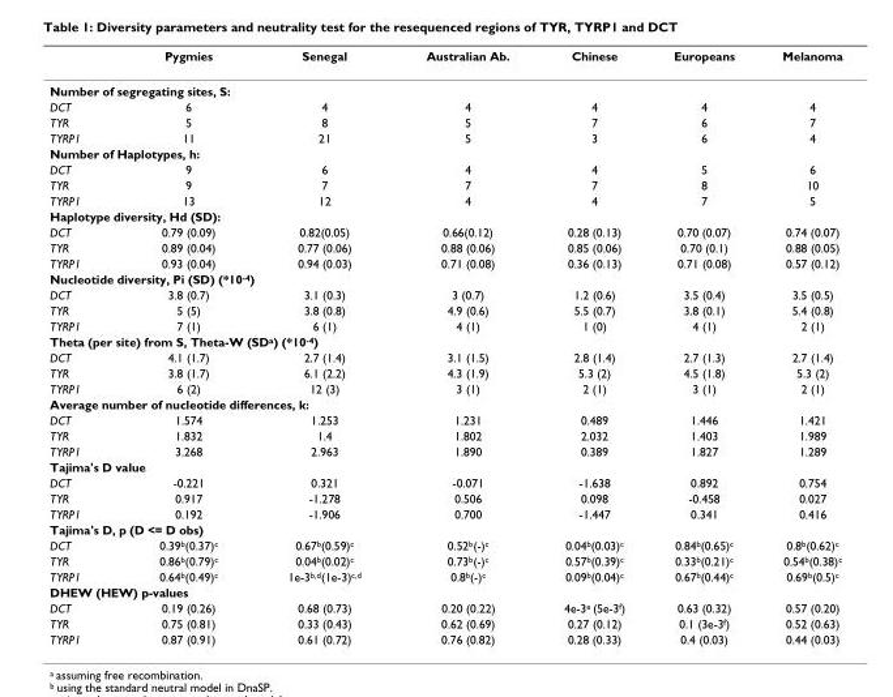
<table><thead><tr><td></td><td>Pygmies</td><td>Senegal</td><td>Australian Ab.</td><td>Chinese</td><td>Europeans</td><td>Melanoma</td></tr></thead><tbody><tr><td colspan="7">Number of segregating sites, S:</td></tr><tr><td>DCT</td><td>6</td><td>4</td><td>4</td><td>4</td><td>4</td><td>4</td></tr><tr><td>TYR</td><td>5</td><td>8</td><td>5</td><td>7</td><td>6</td><td>7</td></tr><tr><td>TYRP1</td><td>11</td><td>21</td><td>5</td><td>3</td><td>6</td><td>4</td></tr><tr><td colspan="7">Number of Haplotypes, h:</td></tr><tr><td>DCT</td><td>9</td><td>6</td><td>4</td><td>4</td><td>5</td><td>6</td></tr><tr><td>TYR</td><td>9</td><td>7</td><td>7</td><td>7</td><td>8</td><td>10</td></tr><tr><td>TYRP1</td><td>13</td><td>12</td><td>4</td><td>4</td><td>7</td><td>5</td></tr><tr><td colspan="7">Haplotype diversity, Hd (SD):</td></tr><tr><td>DCT</td><td>0.79 (0.09)</td><td>0.82(0.05)</td><td>0.66(0.12)</td><td>0.28 (0.13)</td><td>0.70 (0.07)</td><td>0.74 (0.07)</td></tr><tr><td>TYR</td><td>0.89 (0.04)</td><td>0.77 (0.06)</td><td>0.88 (0.06)</td><td>0.85 (0.06)</td><td>0.70 (0.1)</td><td>0.88 (0.05)</td></tr><tr><td>TYRP1</td><td>0.93 (0.04)</td><td>0.94 (0.03)</td><td>0.71 (0.08)</td><td>0.36 (0.13)</td><td>0.71 (0.08)</td><td>0.57 (0.12)</td></tr><tr><td colspan="7">Nucleotide diversity, Pi (SD) (*10<sup>-4</sup>)</td></tr><tr><td>DCT</td><td>3.8 (0.7)</td><td>3.1 (0.3)</td><td>3 (0.7)</td><td>1.2 (0.6)</td><td>3.5 (0.4)</td><td>3.5 (0.5)</td></tr><tr><td>TYR</td><td>5 (5)</td><td>3.8 (0.8)</td><td>4.9 (0.6)</td><td>5.5 (0.7)</td><td>3.8 (0.1)</td><td>5.4 (0.8)</td></tr><tr><td>TYRP1</td><td>7 (1)</td><td>6 (1)</td><td>4 (1)</td><td>1 (0)</td><td>4 (1)</td><td>2 (1)</td></tr><tr><td colspan="7">Theta (per site) from S, Theta-W (SD<sup>a</sup>) (*10<sup>-4</sup>)</td></tr><tr><td>DCT</td><td>4.1 (1.7)</td><td>2.7 (1.4)</td><td>3.1 (1.5)</td><td>2.8 (1.4)</td><td>2.7 (1.3)</td><td>2.7 (1.4)</td></tr><tr><td>TYR</td><td>3.8 (1.7)</td><td>6.1 (2.2)</td><td>4.3 (1.9)</td><td>5.3 (2)</td><td>4.5 (1.8)</td><td>5.3 (2)</td></tr><tr><td>TYRP1</td><td>6 (2)</td><td>12 (3)</td><td>3 (1)</td><td>2 (1)</td><td>3 (1)</td><td>2 (1)</td></tr><tr><td colspan="7">Average number of nucleotide differences, k:</td></tr><tr><td>DCT</td><td>1.574</td><td>1.253</td><td>1.231</td><td>0.489</td><td>1.446</td><td>1.421</td></tr><tr><td>TYR</td><td>1.832</td><td>1.4</td><td>1.802</td><td>2.032</td><td>1.403</td><td>1.989</td></tr><tr><td>TYRP1</td><td>3.268</td><td>2.963</td><td>1.890</td><td>0.389</td><td>1.827</td><td>1.289</td></tr><tr><td colspan="7">Tajima&#x27;s D value</td></tr><tr><td>DCT</td><td>-0.221</td><td>0.321</td><td>-0.071</td><td>-1.638</td><td>0.892</td><td>0.754</td></tr><tr><td>TYR</td><td>0.917</td><td>-1.278</td><td>0.506</td><td>0.098</td><td>-0.458</td><td>0.027</td></tr><tr><td>TYRP1</td><td>0.192</td><td>-1.906</td><td>0.700</td><td>-1.447</td><td>0.341</td><td>0.416</td></tr><tr><td colspan="7">Tajima&#x27;s D, p (D &lt;= D obs)</td></tr><tr><td>DCT</td><td>0.39<sup>b</sup>(0.37)<sup>c</sup></td><td>0.67<sup>b</sup>(0.59)<sup>c</sup></td><td>0.52<sup>b</sup>(-)<sup>c</sup></td><td>0.04<sup>b</sup>(0.03)<sup>c</sup></td><td>0.84<sup>b</sup>(0.65)<sup>c</sup></td><td>0.8<sup>b</sup>(0.62)<sup>c</sup></td></tr><tr><td>TYR</td><td>0.86<sup>b</sup>(0.79)<sup>c</sup></td><td>0.04<sup>b</sup>(0.02)<sup>c</sup></td><td>0.73<sup>b</sup>(-)<sup>c</sup></td><td>0.57<sup>b</sup>(0.39)<sup>c</sup></td><td>0.33<sup>b</sup>(0.21)<sup>c</sup></td><td>0.54<sup>b</sup>(0.38)<sup>c</sup></td></tr><tr><td>TYRP1</td><td>0.64<sup>b</sup>(0.49)<sup>c</sup></td><td>1e-3<sup>b,d</sup>(1e-3)<sup>c,d</sup></td><td>0.8<sup>b</sup>(-)<sup>c</sup></td><td>0.09<sup>b</sup>(0.04)<sup>c</sup></td><td>0.67<sup>b</sup>(0.44)<sup>c</sup></td><td>0.69<sup>b</sup>(0.5)<sup>c</sup></td></tr><tr><td colspan="7">DHEW (HEW) p-values</td></tr><tr><td>DCT</td><td>0.19 (0.26)</td><td>0.68 (0.73)</td><td>0.20 (0.22)</td><td>4e-3<sup>e</sup> (5e-3<sup>f</sup>)</td><td>0.63 (0.32)</td><td>0.57 (0.20)</td></tr><tr><td>TYR</td><td>0.75 (0.81)</td><td>0.33 (0.43)</td><td>0.62 (0.69)</td><td>0.27 (0.12)</td><td>0.1 (3e-3<sup>f</sup>)</td><td>0.52 (0.63)</td></tr><tr><td>TYRP1</td><td>0.87 (0.91)</td><td>0.61 (0.72)</td><td>0.76 (0.82)</td><td>0.28 (0.33)</td><td>0.4 (0.03)</td><td>0.44 (0.03)</td></tr></tbody></table>